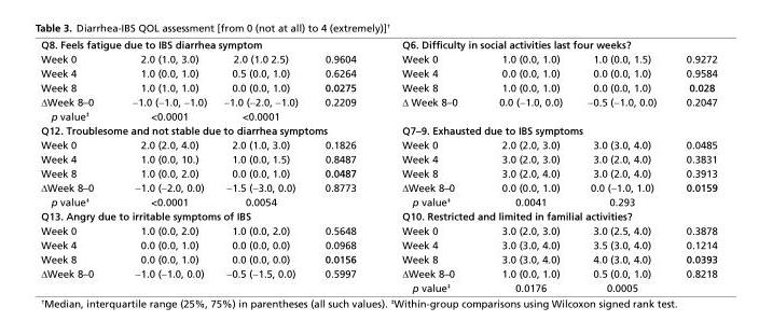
<table><tbody><tr><td colspan="4">Q8. Feels fatigue due to IBS diarrhea symptom</td><td colspan="4">Q6. Difficulty in social activities last four weeks?</td></tr><tr><td>Week 0</td><td>2.0 (1.0, 3.0)</td><td>2.0 (1.0 2.5)</td><td>0.9604</td><td>Week 0</td><td>1.0 (0.0, 1.0)</td><td>1.0 (0.0, 1.5)</td><td>0.9272</td></tr><tr><td>Week 4</td><td>1.0 (0.0, 1.0)</td><td>0.5 (0.0, 1.0)</td><td>0.6264</td><td>Week 4</td><td>0.0 (0.0, 1.0)</td><td>0.0 (0.0, 1.0)</td><td>0.9584</td></tr><tr><td>Week 8</td><td>1.0 (1.0, 1.0)</td><td>0.0 (0.0, 1.0)</td><td>0.0275</td><td>Week 8</td><td>1.0 (0.0, 1.0)</td><td>0.0 (0.0, 1.0)</td><td>0.028</td></tr><tr><td>ΔWeek 8–0</td><td>−1.0 (−1.0, −1.0)</td><td>−1.0 (−2.0, −1.0)</td><td>0.2209</td><td>Δ Week 8–0</td><td>0.0 (−1.0, 0.0)</td><td>−0.5 (−1.0, 0.0)</td><td>0.2047</td></tr><tr><td>p value<sup>‡</sup></td><td>&lt;0.0001</td><td>&lt;0.0001</td><td></td><td></td><td></td><td></td><td></td></tr><tr><td colspan="4">Q12. Troublesome and not stable due to diarrhea symptoms</td><td colspan="4">Q7–9. Exhausted due to IBS symptoms</td></tr><tr><td>Week 0</td><td>2.0 (2.0, 4.0)</td><td>2.0 (1.0, 3.0)</td><td>0.1826</td><td>Week 0</td><td>2.0 (2.0, 3.0)</td><td>3.0 (3.0, 4.0)</td><td>0.0485</td></tr><tr><td>Week 4</td><td>1.0 (0.0, 10.)</td><td>1.0 (0.0, 1.5)</td><td>0.8487</td><td>Week 4</td><td>3.0 (2.0, 3.0)</td><td>3.0 (2.0, 4.0)</td><td>0.3831</td></tr><tr><td>Week 8</td><td>1.0 (0.0, 2.0)</td><td>0.0 (0.0, 1.0)</td><td>0.0487</td><td>Week 8</td><td>3.0 (2.0, 4.0)</td><td>3.0 (2.0, 4.0)</td><td>0.3913</td></tr><tr><td>ΔWeek 8–0</td><td>−1.0 (−2.0, 0.0)</td><td>−1.5 (−3.0, 0.0)</td><td>0.8773</td><td>ΔWeek 8–0</td><td>0.0 (0.0, 1.0)</td><td>0.0 (−1.0, 1.0)</td><td>0.0159</td></tr><tr><td>p value<sup>‡</sup></td><td>&lt;0.0001</td><td>0.0054</td><td></td><td>p value<sup>‡</sup></td><td>0.0041</td><td>0.293</td><td></td></tr><tr><td colspan="4">Q13. Angry due to irritable symptoms of IBS</td><td colspan="4">Q10. Restricted and limited in familial activities?</td></tr><tr><td>Week 0</td><td>1.0 (0.0, 2.0)</td><td>1.0 (0.0, 2.0)</td><td>0.5648</td><td>Week 0</td><td>3.0 (2.0, 3.0)</td><td>3.0 (2.5, 4.0)</td><td>0.3878</td></tr><tr><td>Week 4</td><td>0.0 (0.0, 1.0)</td><td>0.0 (0.0, 0.0)</td><td>0.0968</td><td>Week 4</td><td>3.0 (3.0, 4.0)</td><td>3.5 (3.0, 4.0)</td><td>0.1214</td></tr><tr><td>Week 8</td><td>0.0 (0.0, 1.0)</td><td>0.0 (0.0, 0.0)</td><td>0.0156</td><td>Week 8</td><td>3.0 (3.0, 4.0)</td><td>4.0 (3.0, 4.0)</td><td>0.0393</td></tr><tr><td rowspan="2">ΔWeek 8–0</td><td>−1.0 (−1.0, 0.0)</td><td>−0.5 (−1.5, 0.0)</td><td>0.5997</td><td>ΔWeek 8–0</td><td>1.0 (0.0, 1.0)</td><td>0.5 (0.0, 1.0)</td><td>0.8218</td></tr><tr><td></td><td></td><td></td><td>p value<sup>‡</sup></td><td>0.0176</td><td>0.0005</td><td></td></tr></tbody></table>